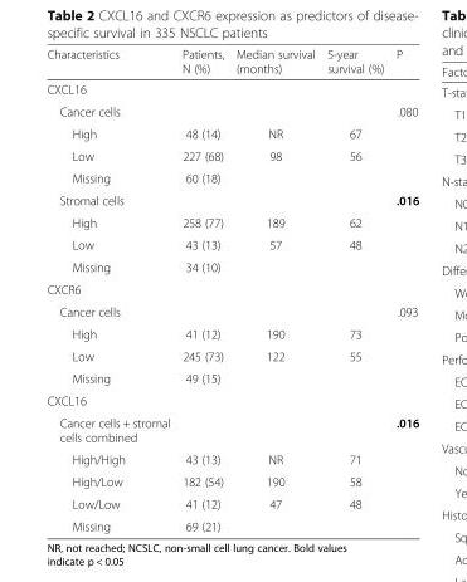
<table><thead><tr><td>Characteristics</td><td>Patients, N (%)</td><td>Median survival (months)</td><td>5-year survival (%)</td><td>P</td></tr></thead><tbody><tr><td colspan="5">CXCL16</td></tr><tr><td>Cancer cells</td><td></td><td></td><td></td><td>.080</td></tr><tr><td>High</td><td>48 (14)</td><td>NR</td><td>67</td><td></td></tr><tr><td>Low</td><td>227 (68)</td><td>98</td><td>56</td><td></td></tr><tr><td>Missing</td><td>60 (18)</td><td></td><td></td><td></td></tr><tr><td>Stromal cells</td><td></td><td></td><td></td><td>.016</td></tr><tr><td>High</td><td>258 (77)</td><td>189</td><td>62</td><td></td></tr><tr><td>Low</td><td>43 (13)</td><td>57</td><td>48</td><td></td></tr><tr><td>Missing</td><td>34 (10)</td><td></td><td></td><td></td></tr><tr><td colspan="5">CXCR6</td></tr><tr><td>Cancer cells</td><td></td><td></td><td></td><td>.093</td></tr><tr><td>High</td><td>41 (12)</td><td>190</td><td>73</td><td></td></tr><tr><td>Low</td><td>245 (73)</td><td>122</td><td>55</td><td></td></tr><tr><td>Missing</td><td>49 (15)</td><td></td><td></td><td></td></tr><tr><td colspan="5">CXCL16</td></tr><tr><td>Cancer cells + stromal cells combined</td><td></td><td></td><td></td><td>.016</td></tr><tr><td>High/High</td><td>43 (13)</td><td>NR</td><td>71</td><td></td></tr><tr><td>High/Low</td><td>182 (54)</td><td>190</td><td>58</td><td></td></tr><tr><td>Low/Low</td><td>41 (12)</td><td>47</td><td>48</td><td></td></tr><tr><td>Missing</td><td>69 (21)</td><td></td><td></td><td></td></tr></tbody></table>